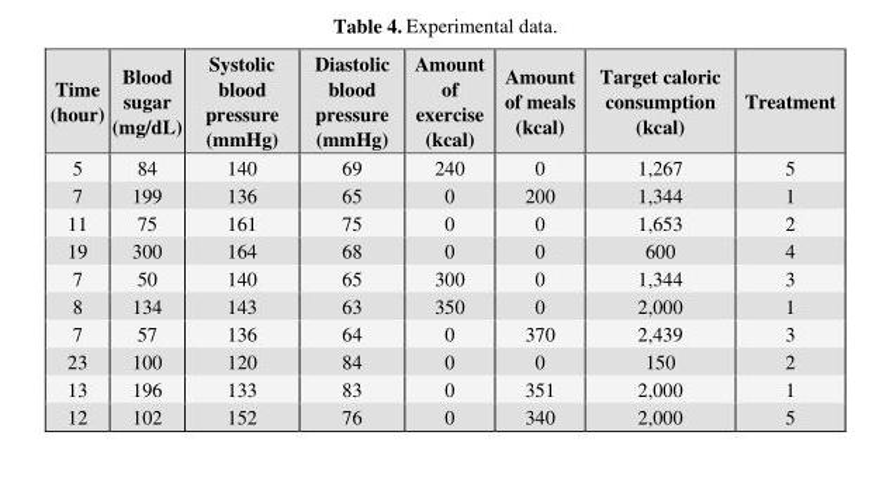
<table><thead><tr><td>Time (hour)</td><td>Blood sugar (mg/dL)</td><td>Systolic blood pressure (mmHg)</td><td>Diastolic blood pressure (mmHg)</td><td>Amount of exercise (kcal)</td><td>Amount of meals (kcal)</td><td>Target caloric consumption (kcal)</td><td>Treatment</td></tr></thead><tbody><tr><td>5</td><td>84</td><td>140</td><td>69</td><td>240</td><td>0</td><td>1,267</td><td>5</td></tr><tr><td>7</td><td>199</td><td>136</td><td>65</td><td>0</td><td>200</td><td>1,344</td><td>1</td></tr><tr><td>11</td><td>75</td><td>161</td><td>75</td><td>0</td><td>0</td><td>1,653</td><td>2</td></tr><tr><td>19</td><td>300</td><td>164</td><td>68</td><td>0</td><td>0</td><td>600</td><td>4</td></tr><tr><td>7</td><td>50</td><td>140</td><td>65</td><td>300</td><td>0</td><td>1,344</td><td>3</td></tr><tr><td>8</td><td>134</td><td>143</td><td>63</td><td>350</td><td>0</td><td>2,000</td><td>1</td></tr><tr><td>7</td><td>57</td><td>136</td><td>64</td><td>0</td><td>370</td><td>2,439</td><td>3</td></tr><tr><td>23</td><td>100</td><td>120</td><td>84</td><td>0</td><td>0</td><td>150</td><td>2</td></tr><tr><td>13</td><td>196</td><td>133</td><td>83</td><td>0</td><td>351</td><td>2,000</td><td>1</td></tr><tr><td>12</td><td>102</td><td>152</td><td>76</td><td>0</td><td>340</td><td>2,000</td><td>5</td></tr></tbody></table>